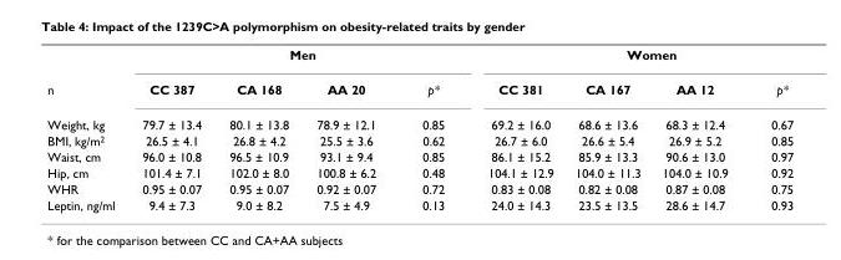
<table><thead><tr><td rowspan="2">n</td><td colspan="4">Men</td><td colspan="4">Women</td></tr><tr><td>CC 387</td><td>CA 168</td><td>AA 20</td><td>p*</td><td>CC 381</td><td>CA 167</td><td>AA 12</td><td>p*</td></tr></thead><tbody><tr><td>Weight, kg</td><td>79.7 ± 13.4</td><td>80.1 ± 13.8</td><td>78.9 ± 12.1</td><td>0.85</td><td>69.2 ± 16.0</td><td>68.6 ± 13.6</td><td>68.3 ± 12.4</td><td>0.67</td></tr><tr><td>BMI, kg/m<sup>2</sup></td><td>26.5 ± 4.1</td><td>26.8 ± 4.2</td><td>25.5 ± 3.6</td><td>0.62</td><td>26.7 ± 6.0</td><td>26.6 ± 5.4</td><td>26.9 ± 5.2</td><td>0.85</td></tr><tr><td>Waist, cm</td><td>96.0 ± 10.8</td><td>96.5 ± 10.9</td><td>93.1 ± 9.4</td><td>0.85</td><td>86.1 ± 15.2</td><td>85.9 ± 13.3</td><td>90.6 ± 13.0</td><td>0.97</td></tr><tr><td>Hip, cm</td><td>101.4 ± 7.1</td><td>102.0 ± 8.0</td><td>100.8 ± 6.2</td><td>0.48</td><td>104.1 ± 12.9</td><td>104.0 ± 11.3</td><td>104.0 ± 10.9</td><td>0.92</td></tr><tr><td>WHR</td><td>0.95 ± 0.07</td><td>0.95 ± 0.07</td><td>0.92 ± 0.07</td><td>0.72</td><td>0.83 ± 0.08</td><td>0.82 ± 0.08</td><td>0.87 ± 0.08</td><td>0.75</td></tr><tr><td>Leptin, ng/ml</td><td>9.4 ± 7.3</td><td>9.0 ± 8.2</td><td>7.5 ± 4.9</td><td>0.13</td><td>24.0 ± 14.3</td><td>23.5 ± 13.5</td><td>28.6 ± 14.7</td><td>0.93</td></tr></tbody></table>